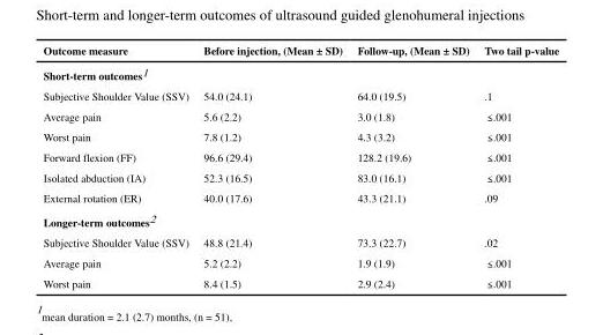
<table><thead><tr><td>Outcome measure</td><td>Before injection, (Mean ± SD)</td><td>Follow-up, (Mean ± SD)</td><td>Two tail p-value</td></tr></thead><tbody><tr><td colspan="4">Short-term outcomes<sup>1</sup></td></tr><tr><td>Subjective Shoulder Value (SSV)</td><td>54.0 (24.1)</td><td>64.0 (19.5)</td><td>.1</td></tr><tr><td>Average pain</td><td>5.6 (2.2)</td><td>3.0 (1.8)</td><td>≤ .001</td></tr><tr><td>Worst pain</td><td>7.8 (1.2)</td><td>4.3 (3.2)</td><td>≤ .001</td></tr><tr><td>Forward flexion (FF)</td><td>96.6 (29.4)</td><td>128.2 (19.6)</td><td>≤ .001</td></tr><tr><td>Isolated abduction (IA)</td><td>52.3 (16.5)</td><td>83.0 (16.1)</td><td>≤ .001</td></tr><tr><td>External rotation (ER)</td><td>40.0 (17.6)</td><td>43.3 (21.1)</td><td>.09</td></tr><tr><td colspan="4">Longer-term outcomes<sup>2</sup></td></tr><tr><td>Subjective Shoulder Value (SSV)</td><td>48.8 (21.4)</td><td>73.3 (22.7)</td><td>.02</td></tr><tr><td>Average pain</td><td>5.2 (2.2)</td><td>1.9 (1.9)</td><td>≤ .001</td></tr><tr><td>Worst pain</td><td>8.4 (1.5)</td><td>2.9 (2.4)</td><td>≤ .001</td></tr></tbody></table>